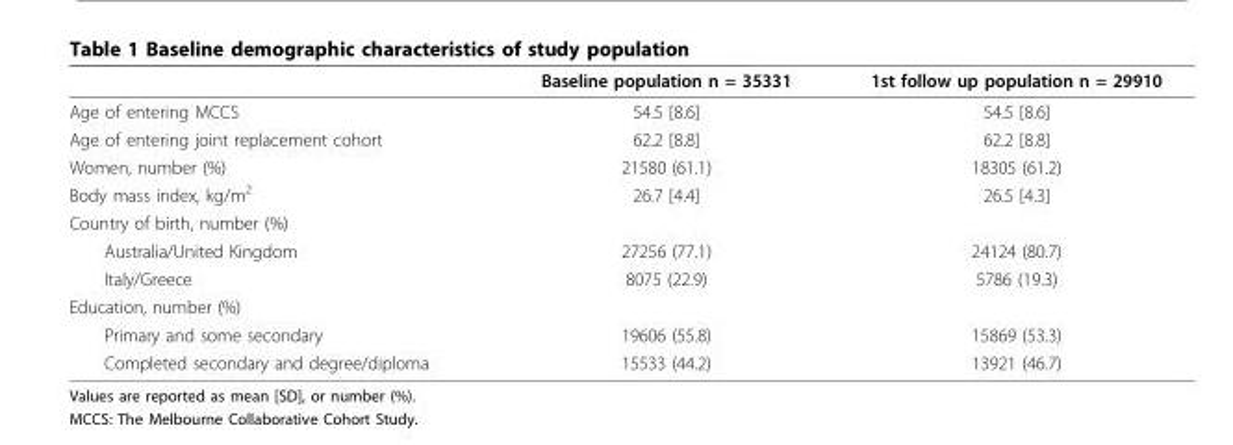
<table><thead><tr><td></td><td>Baseline population n = 35331</td><td>1st follow up population n = 29910</td></tr></thead><tbody><tr><td>Age of entering MCCS</td><td>54.5 [8.6]</td><td>54.5 [8.6]</td></tr><tr><td>Age of entering joint replacement cohort</td><td>62.2 [8.8]</td><td>62.2 [8.8]</td></tr><tr><td>Women, number (%)</td><td>21580 (61.1)</td><td>18305 (61.2)</td></tr><tr><td>Body mass index, kg/m<sup>2</sup></td><td>26.7 [4.4]</td><td>26.5 [4.3]</td></tr><tr><td colspan="3">Country of birth, number (%)</td></tr><tr><td>Australia/United Kingdom</td><td>27256 (77.1)</td><td>24124 (80.7)</td></tr><tr><td>Italy/Greece</td><td>8075 (22.9)</td><td>5786 (19.3)</td></tr><tr><td colspan="3">Education, number (%)</td></tr><tr><td>Primary and some secondary</td><td>19606 (55.8)</td><td>15869 (53.3)</td></tr><tr><td>Completed secondary and degree/diploma</td><td>15533 (44.2)</td><td>13921 (46.7)</td></tr></tbody></table>